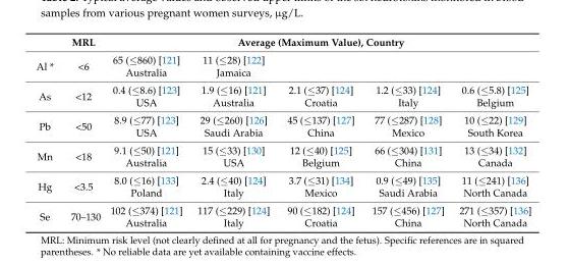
<table><thead><tr><td rowspan="2">Al *</td><td rowspan="2">MRL &lt;6</td><td colspan="5">Average (Maximum Value), Country</td></tr><tr><td>65 (≤860) [121] Australia</td><td>11 (≤28) [122] Jamaica</td><td></td><td></td><td></td></tr></thead><tbody><tr><td>As</td><td>&lt;12</td><td>0.4 (≤8.6) [123] USA</td><td>1.9 (≤16) [121] Australia</td><td>2.1 (≤37) [124] Croatia</td><td>1.2 (≤33) [124] Italy</td><td>0.6 (≤5.8) [125] Belgium</td></tr><tr><td>Pb</td><td>&lt;50</td><td>8.9 (≤77) [123] USA</td><td>29 (≤260) [126] Saudi Arabia</td><td>45 (≤137) [127] China</td><td>77 (≤287) [128] Mexico</td><td>10 (≤22) [129] South Korea</td></tr><tr><td>Mn</td><td>&lt;18</td><td>9.1 (≤50) [121] Australia</td><td>15 (≤33) [130] USA</td><td>12 (≤40) [125] Belgium</td><td>66 (≤304) [131] China</td><td>13 (≤34) [132] Canada</td></tr><tr><td>Hg</td><td>&lt;3.5</td><td>8.0 (≤16) [133] Poland</td><td>2.4 (≤40) [124] Italy</td><td>3.7 (≤31) [134] Mexico</td><td>0.9 (≤49) [135] Saudi Arabia</td><td>11 (≤241) [136] North Canada</td></tr><tr><td>Se</td><td>70–130</td><td>102 (≤374) [121] Australia</td><td>117 (≤229) [124] Italy</td><td>90 (≤182) [124] Croatia</td><td>157 (≤456) [127] China</td><td>271 (≤357) [136] North Canada</td></tr></tbody></table>